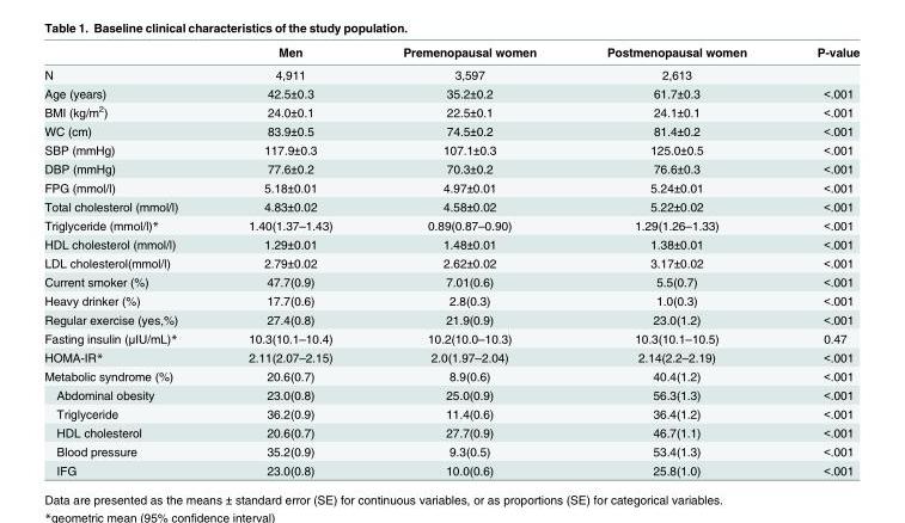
<table><thead><tr><td></td><td>Men</td><td>Premenopausal women</td><td>Postmenopausal women</td><td>P-value</td></tr></thead><tbody><tr><td>N</td><td>4,911</td><td>3,597</td><td>2,613</td><td></td></tr><tr><td>Age (years)</td><td>42.5±0.3</td><td>35.2±0.2</td><td>61.7±0.3</td><td>&lt;.001</td></tr><tr><td>BMI (kg/m<sup>2</sup>)</td><td>24.0±0.1</td><td>22.5±0.1</td><td>24.1±0.1</td><td>&lt;.001</td></tr><tr><td>WC (cm)</td><td>83.9±0.5</td><td>74.5±0.2</td><td>81.4±0.2</td><td>&lt;.001</td></tr><tr><td>SBP (mmHg)</td><td>117.9±0.3</td><td>107.1±0.3</td><td>125.0±0.5</td><td>&lt;.001</td></tr><tr><td>DBP (mmHg)</td><td>77.6±0.2</td><td>70.3±0.2</td><td>76.6±0.3</td><td>&lt;.001</td></tr><tr><td>FPG (mmol/l)</td><td>5.18±0.01</td><td>4.97±0.01</td><td>5.24±0.01</td><td>&lt;.001</td></tr><tr><td>Total cholesterol (mmol/l)</td><td>4.83±0.02</td><td>4.58±0.02</td><td>5.22±0.02</td><td>&lt;.001</td></tr><tr><td>Triglyceride (mmol/l)*</td><td>1.40(1.37–1.43)</td><td>0.89(0.87–0.90)</td><td>1.29(1.26–1.33)</td><td>&lt;.001</td></tr><tr><td>HDL cholesterol (mmol/l)</td><td>1.29±0.01</td><td>1.48±0.01</td><td>1.38±0.01</td><td>&lt;.001</td></tr><tr><td>LDL cholesterol(mmol/l)</td><td>2.79±0.02</td><td>2.62±0.02</td><td>3.17±0.02</td><td>&lt;.001</td></tr><tr><td>Current smoker (%)</td><td>47.7(0.9)</td><td>7.01(0.6)</td><td>5.5(0.7)</td><td>&lt;.001</td></tr><tr><td>Heavy drinker (%)</td><td>17.7(0.6)</td><td>2.8(0.3)</td><td>1.0(0.3)</td><td>&lt;.001</td></tr><tr><td>Regular exercise (yes,%)</td><td>27.4(0.8)</td><td>21.9(0.9)</td><td>23.0(1.2)</td><td>&lt;.001</td></tr><tr><td>Fasting insulin (μIU/mL)*</td><td>10.3(10.1–10.4)</td><td>10.2(10.0–10.3)</td><td>10.3(10.1–10.5)</td><td>0.47</td></tr><tr><td>HOMA-IR*</td><td>2.11(2.07–2.15)</td><td>2.0(1.97–2.04)</td><td>2.14(2.2–2.19)</td><td>&lt;.001</td></tr><tr><td>Metabolic syndrome (%)</td><td>20.6(0.7)</td><td>8.9(0.6)</td><td>40.4(1.2)</td><td>&lt;.001</td></tr><tr><td>Abdominal obesity</td><td>23.0(0.8)</td><td>25.0(0.9)</td><td>56.3(1.3)</td><td>&lt;.001</td></tr><tr><td>Triglyceride</td><td>36.2(0.9)</td><td>11.4(0.6)</td><td>36.4(1.2)</td><td>&lt;.001</td></tr><tr><td>HDL cholesterol</td><td>20.6(0.7)</td><td>27.7(0.9)</td><td>46.7(1.1)</td><td>&lt;.001</td></tr><tr><td>Blood pressure</td><td>35.2(0.9)</td><td>9.3(0.5)</td><td>53.4(1.3)</td><td>&lt;.001</td></tr><tr><td>IFG</td><td>23.0(0.8)</td><td>10.0(0.6)</td><td>25.8(1.0)</td><td>&lt;.001</td></tr></tbody></table>